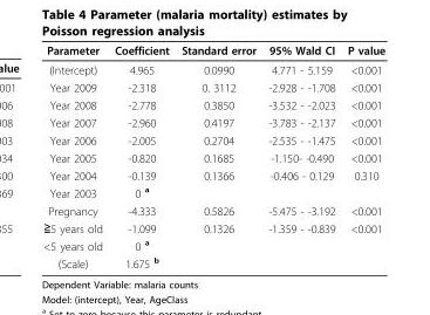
<table><thead><tr><td>Parameter</td><td>Coefficient</td><td>Standard error</td><td>95% Wald CI</td><td>P value</td></tr></thead><tbody><tr><td>(Intercept)</td><td>4.965</td><td>0.0990</td><td>4.771 - 5.159</td><td>&lt;0.001</td></tr><tr><td>Year 2009</td><td>-2.318</td><td>0. 3112</td><td>-2.928 - -1.708</td><td>&lt;0.001</td></tr><tr><td>Year 2008</td><td>-2.778</td><td>0.3850</td><td>-3.532 - -2.023</td><td>&lt;0.001</td></tr><tr><td>Year 2007</td><td>-2.960</td><td>0.4197</td><td>-3.783 - -2.137</td><td>&lt;0.001</td></tr><tr><td>Year 2006</td><td>-2.005</td><td>0.2704</td><td>-2.535 - -1.475</td><td>&lt;0.001</td></tr><tr><td>Year 2005</td><td>-0.820</td><td>0.1685</td><td>-1.150- -0.490</td><td>&lt;0.001</td></tr><tr><td>Year 2004</td><td>-0.139</td><td>0.1366</td><td>-0.406 - 0.129</td><td>0.310</td></tr><tr><td>Year 2003</td><td>0 <sup>a</sup></td><td></td><td></td><td></td></tr><tr><td>Pregnancy</td><td>-4.333</td><td>0.5826</td><td>-5.475 - -3.192</td><td>&lt;0.001</td></tr><tr><td>≧5 years old</td><td>-1.099</td><td>0.1326</td><td>-1.359 - -0.839</td><td>&lt;0.001</td></tr><tr><td>&lt;5 years old</td><td>0 <sup>a</sup></td><td></td><td></td><td></td></tr><tr><td>(Scale)</td><td>1.675 <sup>b</sup></td><td></td><td></td><td></td></tr></tbody></table>